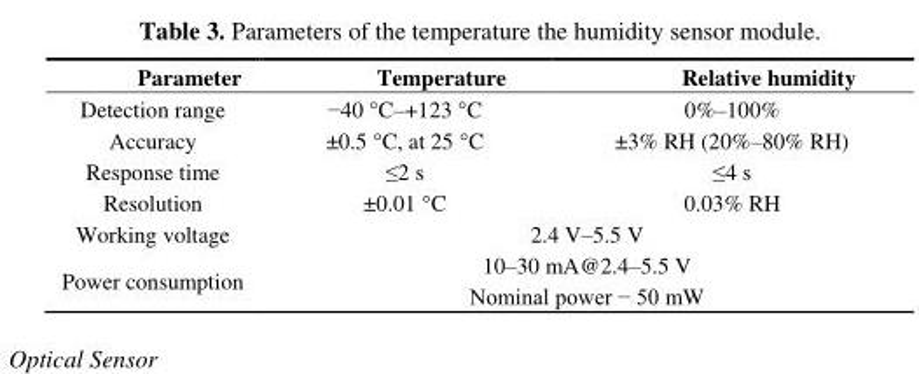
<table><thead><tr><td>Parameter</td><td>Temperature</td><td>Relative humidity</td></tr></thead><tbody><tr><td>Detection range</td><td>−40 °C–+123 °C</td><td>0%–100%</td></tr><tr><td>Accuracy</td><td>±0.5 °C, at 25 °C</td><td>±3% RH (20%–80% RH)</td></tr><tr><td>Response time</td><td>≤2 s</td><td>≤4 s</td></tr><tr><td>Resolution</td><td>±0.01 °C</td><td>0.03% RH</td></tr><tr><td>Working voltage</td><td colspan="2">2.4 V–5.5 V</td></tr><tr><td>Power consumption</td><td colspan="2">10–30 mA@2.4–5.5 V Nominal power − 50 mW</td></tr></tbody></table>